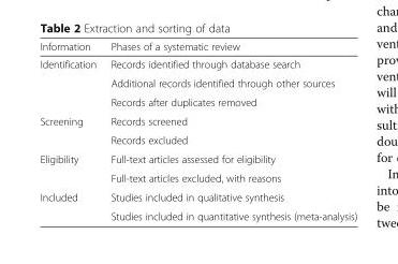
<table><thead><tr><td>Information</td><td>Phases of a systematic review</td></tr></thead><tbody><tr><td rowspan="3">Identification</td><td>Records identified through database search</td></tr><tr><td>Additional records identified through other sources</td></tr><tr><td>Records after duplicates removed</td></tr><tr><td rowspan="2">Screening</td><td>Records screened</td></tr><tr><td>Records excluded</td></tr><tr><td rowspan="2">Eligibility</td><td>Full-text articles assessed for eligibility</td></tr><tr><td>Full-text articles excluded, with reasons</td></tr><tr><td rowspan="2">Included</td><td>Studies included in qualitative synthesis</td></tr><tr><td>Studies included in quantitative synthesis (meta-analysis)</td></tr></tbody></table>